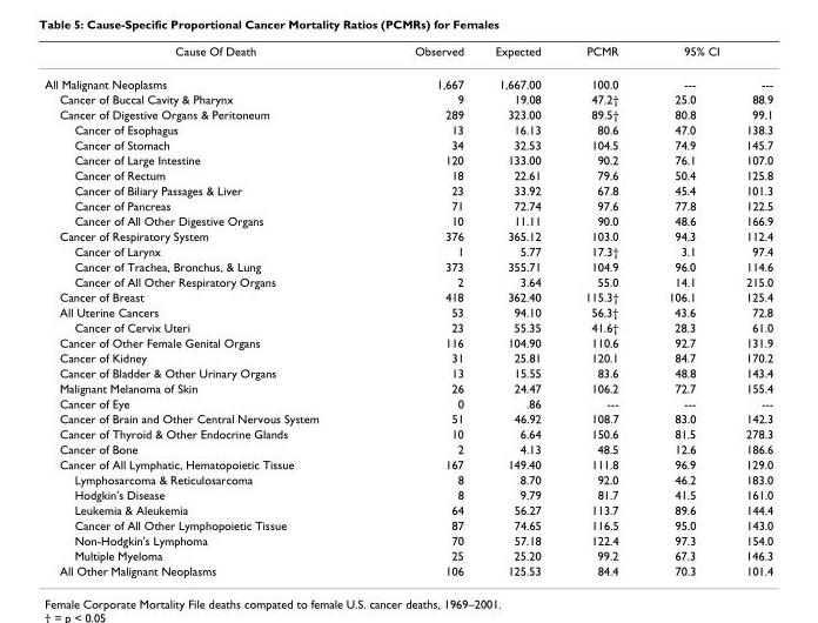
<table><thead><tr><td rowspan="2">Cause Of Death All Malignant Neoplasms</td><td rowspan="2">Observed 1,667</td><td rowspan="2">Expected 1,667.00</td><td rowspan="2">PCMR 100.0</td><td colspan="2">95% CI</td></tr><tr><td>---</td><td>---</td></tr></thead><tbody><tr><td>Cancer of Buccal Cavity &amp; Pharynx</td><td>9</td><td>19.08</td><td>47.2†</td><td>25.0</td><td>88.9</td></tr><tr><td>Cancer of Digestive Organs &amp; Peritoneum</td><td>289</td><td>323.00</td><td>89.5†</td><td>80.8</td><td>99.1</td></tr><tr><td>Cancer of Esophagus</td><td>13</td><td>16.13</td><td>80.6</td><td>47.0</td><td>138.3</td></tr><tr><td>Cancer of Stomach</td><td>34</td><td>32.53</td><td>104.5</td><td>74.9</td><td>145.7</td></tr><tr><td>Cancer of Large Intestine</td><td>120</td><td>133.00</td><td>90.2</td><td>76.1</td><td>107.0</td></tr><tr><td>Cancer of Rectum</td><td>18</td><td>22.61</td><td>79.6</td><td>50.4</td><td>125.8</td></tr><tr><td>Cancer of Biliary Passages &amp; Liver</td><td>23</td><td>33.92</td><td>67.8</td><td>45.4</td><td>101.3</td></tr><tr><td>Cancer of Pancreas</td><td>71</td><td>72.74</td><td>97.6</td><td>77.8</td><td>122.5</td></tr><tr><td>Cancer of All Other Digestive Organs</td><td>10</td><td>11.11</td><td>90.0</td><td>48.6</td><td>166.9</td></tr><tr><td>Cancer of Respiratory System</td><td>376</td><td>365.12</td><td>103.0</td><td>94.3</td><td>112.4</td></tr><tr><td>Cancer of Larynx</td><td>1</td><td>5.77</td><td>17.3†</td><td>3.1</td><td>97.4</td></tr><tr><td>Cancer of Trachea, Bronchus, &amp; Lung</td><td>373</td><td>355.71</td><td>104.9</td><td>96.0</td><td>114.6</td></tr><tr><td>Cancer of All Other Respiratory Organs</td><td>2</td><td>3.64</td><td>55.0</td><td>14.1</td><td>215.0</td></tr><tr><td>Cancer of Breast</td><td>418</td><td>362.40</td><td>115.3†</td><td>106.1</td><td>125.4</td></tr><tr><td>All Uterine Cancers</td><td>53</td><td>94.10</td><td>56.3†</td><td>43.6</td><td>72.8</td></tr><tr><td>Cancer of Cervix Uteri</td><td>23</td><td>55.35</td><td>41.6†</td><td>28.3</td><td>61.0</td></tr><tr><td>Cancer of Other Female Genital Organs</td><td>116</td><td>104.90</td><td>110.6</td><td>92.7</td><td>131.9</td></tr><tr><td>Cancer of Kidney</td><td>31</td><td>25.81</td><td>120.1</td><td>84.7</td><td>170.2</td></tr><tr><td>Cancer of Bladder &amp; Other Urinary Organs</td><td>13</td><td>15.55</td><td>83.6</td><td>48.8</td><td>143.4</td></tr><tr><td>Malignant Melanoma of Skin</td><td>26</td><td>24.47</td><td>106.2</td><td>72.7</td><td>155.4</td></tr><tr><td>Cancer of Eye</td><td>0</td><td>.86</td><td>---</td><td>---</td><td>---</td></tr><tr><td>Cancer of Brain and Other Central Nervous System</td><td>51</td><td>46.92</td><td>108.7</td><td>83.0</td><td>142.3</td></tr><tr><td>Cancer of Thyroid &amp; Other Endocrine Glands</td><td>10</td><td>6.64</td><td>150.6</td><td>81.5</td><td>278.3</td></tr><tr><td>Cancer of Bone</td><td>2</td><td>4.13</td><td>48.5</td><td>12.6</td><td>186.6</td></tr><tr><td>Cancer of All Lymphatic, Hematopoietic Tissue</td><td>167</td><td>149.40</td><td>111.8</td><td>96.9</td><td>129.0</td></tr><tr><td>Lymphosarcoma &amp; Reticulosarcoma</td><td>8</td><td>8.70</td><td>92.0</td><td>46.2</td><td>183.0</td></tr><tr><td>Hodgkin&#x27;s Disease</td><td>8</td><td>9.79</td><td>81.7</td><td>41.5</td><td>161.0</td></tr><tr><td>Leukemia &amp; Aleukemia</td><td>64</td><td>56.27</td><td>113.7</td><td>89.6</td><td>144.4</td></tr><tr><td>Cancer of All Other Lymphopoietic Tissue</td><td>87</td><td>74.65</td><td>116.5</td><td>95.0</td><td>143.0</td></tr><tr><td>Non-Hodgkin&#x27;s Lymphoma</td><td>70</td><td>57.18</td><td>122.4</td><td>97.3</td><td>154.0</td></tr><tr><td>Multiple Myeloma</td><td>25</td><td>25.20</td><td>99.2</td><td>67.3</td><td>146.3</td></tr><tr><td>All Other Malignant Neoplasms</td><td>106</td><td>125.53</td><td>84.4</td><td>70.3</td><td>101.4</td></tr></tbody></table>